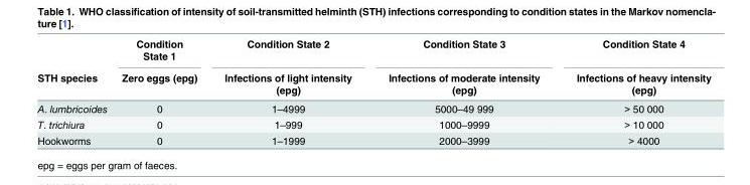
<table><thead><tr><td rowspan="2">STH species</td><td rowspan="2">Condition State 1 Zero eggs (epg)</td><td rowspan="2">Condition State 2 Infections of light intensity (epg)</td><td rowspan="2">Condition State 3 Infections of moderate intensity (epg)</td><td rowspan="2">Condition State 4 Infections of heavy intensity (epg)</td></tr><tr></tr></thead><tbody><tr><td>A. lumbricoides</td><td>0</td><td>1–4999</td><td>5000–49 999</td><td>&gt; 50 000</td></tr><tr><td>T. trichiura</td><td>0</td><td>1–999</td><td>1000–9999</td><td>&gt; 10 000</td></tr><tr><td>Hookworms</td><td>0</td><td>1–1999</td><td>2000–3999</td><td>&gt; 4000</td></tr></tbody></table>